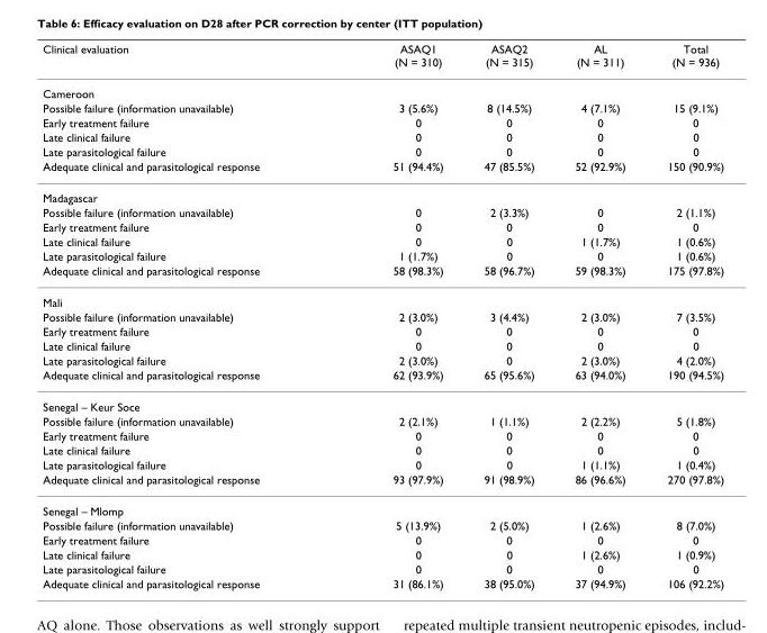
<table><thead><tr><td>Clinical evaluation</td><td>ASAQ1 (N = 310)</td><td>ASAQ2 (N = 315)</td><td>AL (N = 311)</td><td>Total (N = 936)</td></tr></thead><tbody><tr><td colspan="5">Cameroon</td></tr><tr><td>Possible failure (information unavailable)</td><td>3 (5.6%)</td><td>8 (14.5%)</td><td>4 (7.1%)</td><td>15 (9.1%)</td></tr><tr><td>Early treatment failure</td><td>0</td><td>0</td><td>0</td><td>0</td></tr><tr><td>Late clinical failure</td><td>0</td><td>0</td><td>0</td><td>0</td></tr><tr><td>Late parasitological failure</td><td>0</td><td>0</td><td>0</td><td>0</td></tr><tr><td>Adequate clinical and parasitological response</td><td>51 (94.4%)</td><td>47 (85.5%)</td><td>52 (92.9%)</td><td>150 (90.9%)</td></tr><tr><td colspan="5">Madagascar</td></tr><tr><td>Possible failure (information unavailable)</td><td>0</td><td>2 (3.3%)</td><td>0</td><td>2 (1.1%)</td></tr><tr><td>Early treatment failure</td><td>0</td><td>0</td><td>0</td><td>0</td></tr><tr><td>Late clinical failure</td><td>0</td><td>0</td><td>1 (1.7%)</td><td>1 (0.6%)</td></tr><tr><td>Late parasitological failure</td><td>1 (1.7%)</td><td>0</td><td>0</td><td>1 (0.6%)</td></tr><tr><td>Adequate clinical and parasitological response</td><td>58 (98.3%)</td><td>58 (96.7%)</td><td>59 (98.3%)</td><td>175 (97.8%)</td></tr><tr><td colspan="5">Mali</td></tr><tr><td>Possible failure (information unavailable)</td><td>2 (3.0%)</td><td>3 (4.4%)</td><td>2 (3.0%)</td><td>7 (3.5%)</td></tr><tr><td>Early treatment failure</td><td>0</td><td>0</td><td>0</td><td>0</td></tr><tr><td>Late clinical failure</td><td>0</td><td>0</td><td>0</td><td>0</td></tr><tr><td>Late parasitological failure</td><td>2 (3.0%)</td><td>0</td><td>2 (3.0%)</td><td>4 (2.0%)</td></tr><tr><td>Adequate clinical and parasitological response</td><td>62 (93.9%)</td><td>65 (95.6%)</td><td>63 (94.0%)</td><td>190 (94.5%)</td></tr><tr><td colspan="5">Senegal – Keur Soce</td></tr><tr><td>Possible failure (information unavailable)</td><td>2 (2.1%)</td><td>1 (1.1%)</td><td>2 (2.2%)</td><td>5 (1.8%)</td></tr><tr><td>Early treatment failure</td><td>0</td><td>0</td><td>0</td><td>0</td></tr><tr><td>Late clinical failure</td><td>0</td><td>0</td><td>0</td><td>0</td></tr><tr><td>Late parasitological failure</td><td>0</td><td>0</td><td>1 (1.1%)</td><td>1 (0.4%)</td></tr><tr><td>Adequate clinical and parasitological response</td><td>93 (97.9%)</td><td>91 (98.9%)</td><td>86 (96.6%)</td><td>270 (97.8%)</td></tr><tr><td colspan="5">Senegal – Mlomp</td></tr><tr><td>Possible failure (information unavailable)</td><td>5 (13.9%)</td><td>2 (5.0%)</td><td>1 (2.6%)</td><td>8 (7.0%)</td></tr><tr><td>Early treatment failure</td><td>0</td><td>0</td><td>0</td><td>0</td></tr><tr><td>Late clinical failure</td><td>0</td><td>0</td><td>1 (2.6%)</td><td>1 (0.9%)</td></tr><tr><td>Late parasitological failure</td><td>0</td><td>0</td><td>0</td><td>0</td></tr><tr><td>Adequate clinical and parasitological response</td><td>31 (86.1%)</td><td>38 (95.0%)</td><td>37 (94.9%)</td><td>106 (92.2%)</td></tr></tbody></table>